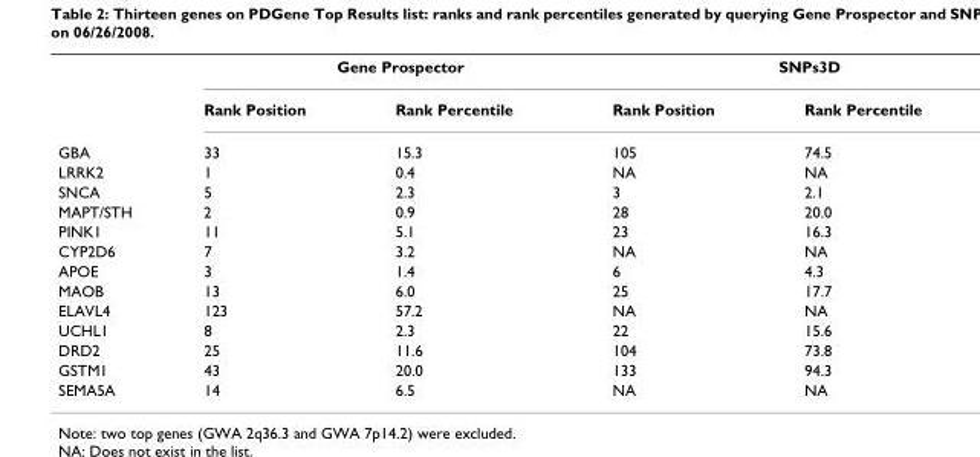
<table><thead><tr><td rowspan="2"></td><td colspan="2">Gene Prospector</td><td colspan="2">SNPs3D</td></tr><tr><td>Rank Position</td><td>Rank Percentile</td><td>Rank Position</td><td>Rank Percentile</td></tr></thead><tbody><tr><td>GBA</td><td>33</td><td>15.3</td><td>105</td><td>74.5</td></tr><tr><td>LRRK2</td><td>1</td><td>0.4</td><td>NA</td><td>NA</td></tr><tr><td>SNCA</td><td>5</td><td>2.3</td><td>3</td><td>2.1</td></tr><tr><td>MAPT/STH</td><td>2</td><td>0.9</td><td>28</td><td>20.0</td></tr><tr><td>PINK1</td><td>11</td><td>5.1</td><td>23</td><td>16.3</td></tr><tr><td>CYP2D6</td><td>7</td><td>3.2</td><td>NA</td><td>NA</td></tr><tr><td>APOE</td><td>3</td><td>1.4</td><td>6</td><td>4.3</td></tr><tr><td>MAOB</td><td>13</td><td>6.0</td><td>25</td><td>17.7</td></tr><tr><td>ELAVL4</td><td>123</td><td>57.2</td><td>NA</td><td>NA</td></tr><tr><td>UCHL1</td><td>8</td><td>2.3</td><td>22</td><td>15.6</td></tr><tr><td>DRD2</td><td>25</td><td>11.6</td><td>104</td><td>73.8</td></tr><tr><td>GSTM1</td><td>43</td><td>20.0</td><td>133</td><td>94.3</td></tr><tr><td>SEMA5A</td><td>14</td><td>6.5</td><td>NA</td><td>NA</td></tr></tbody></table>